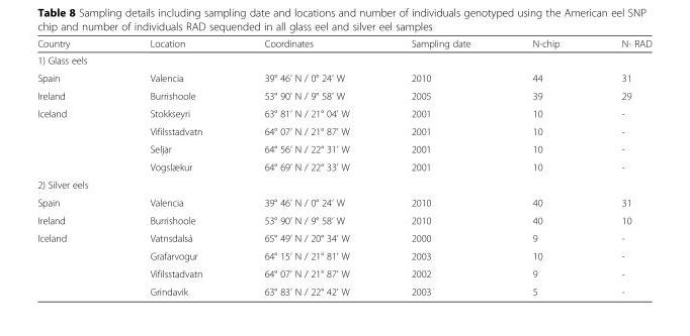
<table><thead><tr><td>Country</td><td>Location</td><td>Coordinates</td><td>Sampling date</td><td>N-chip</td><td>N- RAD</td></tr></thead><tbody><tr><td colspan="6">1) Glass eels</td></tr><tr><td>Spain</td><td>Valencia</td><td>39° 46’ N / 0° 24’ W</td><td>2010</td><td>44</td><td>31</td></tr><tr><td>Ireland</td><td>Burrishoole</td><td>53° 90’ N / 9° 58’ W</td><td>2005</td><td>39</td><td>29</td></tr><tr><td rowspan="4">Iceland</td><td>Stokkseyri</td><td>63° 81’ N / 21° 04’ W</td><td>2001</td><td>10</td><td>-</td></tr><tr><td>Vifilsstadvatn</td><td>64° 07’ N / 21° 87’ W</td><td>2001</td><td>10</td><td>-</td></tr><tr><td>Seljar</td><td>64° 56’ N / 22° 31’ W</td><td>2001</td><td>10</td><td>-</td></tr><tr><td>Vogslækur</td><td>64° 69’ N / 22° 33’ W</td><td>2001</td><td>10</td><td>-</td></tr><tr><td colspan="6">2) Silver eels</td></tr><tr><td>Spain</td><td>Valencia</td><td>39° 46’ N / 0° 24’ W</td><td>2010</td><td>40</td><td>31</td></tr><tr><td>Ireland</td><td>Burrishoole</td><td>53° 90’ N / 9° 58’ W</td><td>2010</td><td>40</td><td>10</td></tr><tr><td rowspan="4">Iceland</td><td>Vatnsdalsá</td><td>65° 49’ N / 20° 34’ W</td><td>2000</td><td>9</td><td>-</td></tr><tr><td>Grafarvogur</td><td>64° 15’ N / 21° 81’ W</td><td>2003</td><td>10</td><td>-</td></tr><tr><td>Vifilsstadvatn</td><td>64° 07’ N / 21° 87’ W</td><td>2002</td><td>9</td><td>-</td></tr><tr><td>Grindavik</td><td>63° 83’ N / 22° 42’ W</td><td>2003</td><td>5</td><td>-</td></tr></tbody></table>